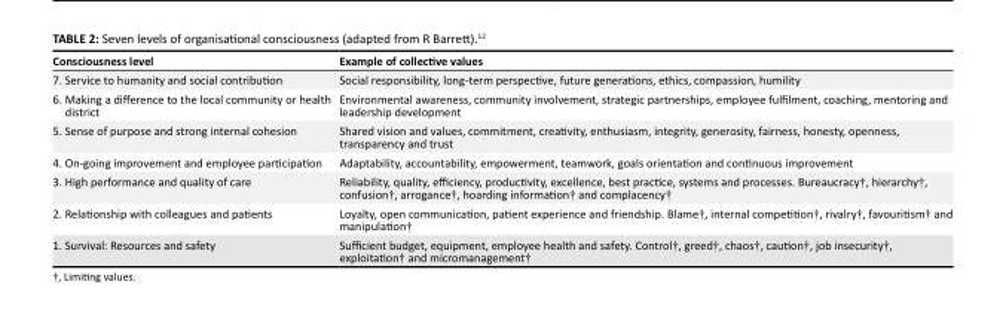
<table><thead><tr><td>Consciousness level</td><td>Example of collective values</td></tr></thead><tbody><tr><td>7. Service to humanity and social contribution</td><td>Social responsibility, long-term perspective, future generations, ethics, compassion, humility</td></tr><tr><td>6. Making a difference to the local community or health district</td><td>Environmental awareness, community involvement, strategic partnerships, employee fulfilment, coaching, mentoring and leadership development</td></tr><tr><td>5. Sense of purpose and strong internal cohesion</td><td>Shared vision and values, commitment, creativity, enthusiasm, integrity, generosity, fairness, honesty, openness, transparency and trust</td></tr><tr><td>4. On-going improvement and employee participation</td><td>Adaptability, accountability, empowerment, teamwork, goals orientation and continuous improvement</td></tr><tr><td>3. High performance and quality of care</td><td>Reliability, quality, efficiency, productivity, excellence, best practice, systems and processes. Bureaucracy†, hierarchy†, confusion†, arrogance†, hoarding information† and complacency†</td></tr><tr><td>2. Relationship with colleagues and patients</td><td>Loyalty, open communication, patient experience and friendship. Blame†, internal competition†, rivalry†, favouritism† and manipulation†</td></tr><tr><td>1. Survival: Resources and safety</td><td>Sufficient budget, equipment, employee health and safety. Control†, greed†, chaos†, caution†, job insecurity†, exploitation† and micromanagement†</td></tr></tbody></table>